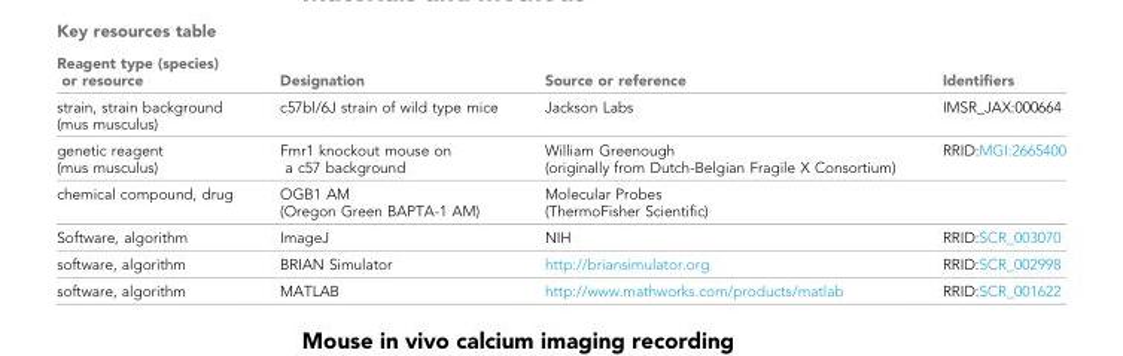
<table><thead><tr><td>Reagent type (species) or resource</td><td>Designation</td><td>Source or reference</td><td>Identifiers</td></tr></thead><tbody><tr><td>strain, strain background (mus musculus)</td><td>c57bl/6J strain of wild type mice</td><td>Jackson Labs</td><td>IMSR_JAX:000664</td></tr><tr><td>genetic reagent (mus musculus)</td><td>Fmr1 knockout mouse on a c57 background</td><td>William Greenough (originally from Dutch-Belgian Fragile X Consortium)</td><td>RRID:MGI:2665400</td></tr><tr><td>chemical compound, drug</td><td>OGB1 AM (Oregon Green BAPTA-1 AM)</td><td>Molecular Probes (ThermoFisher Scientific)</td><td></td></tr><tr><td>Software, algorithm</td><td>ImageJ</td><td>NIH</td><td>RRID:SCR_003070</td></tr><tr><td>software, algorithm</td><td>BRIAN Simulator</td><td>http://briansimulator.org</td><td>RRID:SCR_002998</td></tr><tr><td>software, algorithm</td><td>MATLAB</td><td>http://www.mathworks.com/products/matlab</td><td>RRID:SCR_001622</td></tr></tbody></table>